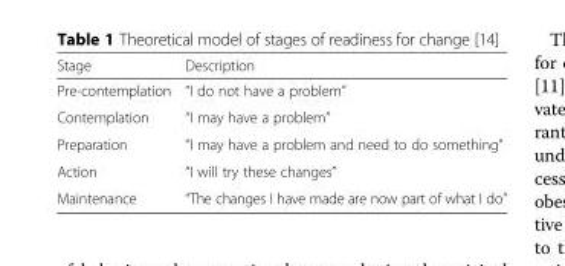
<table><thead><tr><td>Stage</td><td>Description</td></tr></thead><tbody><tr><td>Pre-contemplation</td><td>“I do not have a problem”</td></tr><tr><td>Contemplation</td><td>“I may have a problem”</td></tr><tr><td>Preparation</td><td>“I may have a problem and need to do something”</td></tr><tr><td>Action</td><td>“I will try these changes”</td></tr><tr><td>Maintenance</td><td>“The changes I have made are now part of what I do”</td></tr></tbody></table>